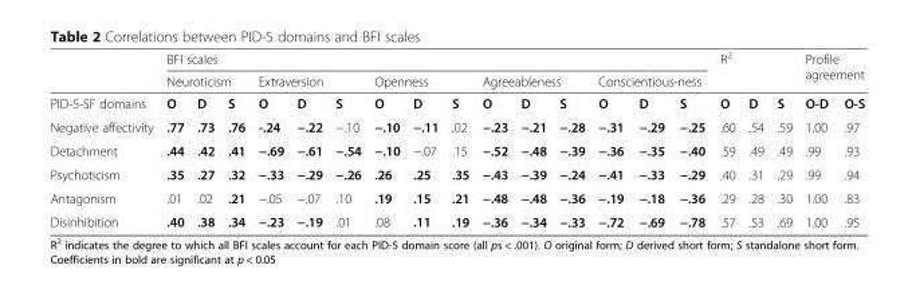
<table><thead><tr><td rowspan="3">PID-5-SF domains</td><td colspan="15">BFI scales</td><td rowspan="2" colspan="3">R<sup>2</sup></td><td rowspan="2" colspan="2">Profile agreement</td></tr><tr><td colspan="3">Neuroticism</td><td colspan="3">Extraversion</td><td colspan="3">Openness</td><td colspan="3">Agreeableness</td><td colspan="3">Conscientious-ness</td></tr><tr><td>O</td><td>D</td><td>S</td><td>O</td><td>D</td><td>S</td><td>O</td><td>D</td><td>S</td><td>O</td><td>D</td><td>S</td><td>O</td><td>D</td><td>S</td><td>O</td><td>D</td><td>S</td><td>O-D</td><td>O-S</td></tr></thead><tbody><tr><td>Negative affectivity</td><td>.77</td><td>.73</td><td>.76</td><td>-.24</td><td>−.22</td><td>−.10</td><td>−.10</td><td>−.11</td><td>.02</td><td>−.23</td><td>−.21</td><td>−.28</td><td>−.31</td><td>−.29</td><td>−.25</td><td>.60</td><td>.54</td><td>.59</td><td>1.00</td><td>.97</td></tr><tr><td>Detachment</td><td>.44</td><td>.42</td><td>.41</td><td>−.69</td><td>−.61</td><td>−.54</td><td>−.10</td><td>−.07</td><td>.15</td><td>−.52</td><td>−.48</td><td>−.39</td><td>−.36</td><td>−.35</td><td>−.40</td><td>.59</td><td>.49</td><td>.49</td><td>.99</td><td>.93</td></tr><tr><td>Psychoticism</td><td>.35</td><td>.27</td><td>.32</td><td>−.33</td><td>−.29</td><td>−.26</td><td>.26</td><td>.25</td><td>.35</td><td>−.43</td><td>−.39</td><td>−.24</td><td>−.41</td><td>−.33</td><td>−.29</td><td>.40</td><td>.31</td><td>.29</td><td>.99</td><td>.94</td></tr><tr><td>Antagonism</td><td>.01</td><td>.02</td><td>.21</td><td>−.05</td><td>−.07</td><td>.10</td><td>.19</td><td>.15</td><td>.21</td><td>−.48</td><td>−.48</td><td>−.36</td><td>−.19</td><td>−.18</td><td>−.36</td><td>.29</td><td>.28</td><td>.30</td><td>1.00</td><td>.83</td></tr><tr><td>Disinhibition</td><td>.40</td><td>.38</td><td>.34</td><td>−.23</td><td>−.19</td><td>.01</td><td>.08</td><td>.11</td><td>.19</td><td>−.36</td><td>−.34</td><td>−.33</td><td>−.72</td><td>−.69</td><td>−.78</td><td>.57</td><td>.53</td><td>.69</td><td>1.00</td><td>.95</td></tr></tbody></table>